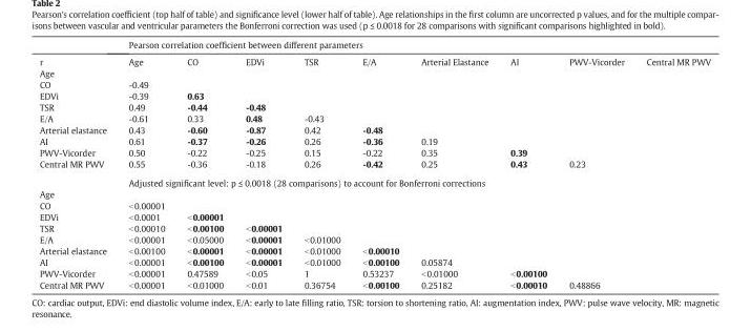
<table><thead><tr><td rowspan="2">r</td><td colspan="9">Pearson correlation coefficient between different parameters</td></tr><tr><td>Age</td><td>CO</td><td>EDVi</td><td>TSR</td><td>E/A</td><td>Arterial Elastance</td><td>AI</td><td>PWV-Vicorder</td><td>Central MR PWV</td></tr></thead><tbody><tr><td colspan="10">Age</td></tr><tr><td>CO</td><td>-0.49</td><td></td><td></td><td></td><td></td><td></td><td></td><td></td><td></td></tr><tr><td>EDVi</td><td>-0.39</td><td>0.63</td><td></td><td></td><td></td><td></td><td></td><td></td><td></td></tr><tr><td>TSR</td><td>0.49</td><td>-0.44</td><td>-0.48</td><td></td><td></td><td></td><td></td><td></td><td></td></tr><tr><td>E/A</td><td>-0.61</td><td>0.33</td><td>0.48</td><td>-0.43</td><td></td><td></td><td></td><td></td><td></td></tr><tr><td>Arterial elastance</td><td>0.43</td><td>-0.60</td><td>-0.87</td><td>0.42</td><td>-0.48</td><td></td><td></td><td></td><td></td></tr><tr><td>AI</td><td>0.61</td><td>-0.37</td><td>-0.26</td><td>0.26</td><td>-0.36</td><td>0.19</td><td></td><td></td><td></td></tr><tr><td>PWV-Vicorder</td><td>0.50</td><td>-0.22</td><td>-0.25</td><td>0.15</td><td>-0.22</td><td>0.35</td><td>0.39</td><td></td><td></td></tr><tr><td rowspan="2">Central MR PWV</td><td>0.55</td><td>-0.36</td><td>-0.18</td><td>0.26</td><td>-0.42</td><td>0.25</td><td>0.43</td><td>0.23</td><td></td></tr><tr><td colspan="9">Adjusted significant level: p ≤ 0.0018 (28 comparisons) to account for Bonferroni corrections</td></tr><tr><td colspan="10">Age</td></tr><tr><td>CO</td><td>&lt;0.00001</td><td></td><td></td><td></td><td></td><td></td><td></td><td></td><td></td></tr><tr><td>EDVi</td><td>&lt;0.0001</td><td>&lt;0.00001</td><td></td><td></td><td></td><td></td><td></td><td></td><td></td></tr><tr><td>TSR</td><td>&lt;0.00010</td><td>&lt;0.00100</td><td>&lt;0.00001</td><td></td><td></td><td></td><td></td><td></td><td></td></tr><tr><td>E/A</td><td>&lt;0.00001</td><td>&lt;0.05000</td><td>&lt;0.00001</td><td>&lt;0.01000</td><td></td><td></td><td></td><td></td><td></td></tr><tr><td>Arterial elastance</td><td>&lt;0.00100</td><td>&lt;0.00001</td><td>&lt;0.00001</td><td>&lt;0.01000</td><td>&lt;0.00010</td><td></td><td></td><td></td><td></td></tr><tr><td>AI</td><td>&lt;0.00001</td><td>&lt;0.00100</td><td>&lt;0.00001</td><td>&lt;0.01000</td><td>&lt;0.00100</td><td>0.05874</td><td></td><td></td><td></td></tr><tr><td>PWV-Vicorder</td><td>&lt;0.00001</td><td>0.47589</td><td>&lt;0.05</td><td>1</td><td>0.53237</td><td>&lt;0.01000</td><td>&lt;0.00100</td><td></td><td></td></tr><tr><td>Central MR PWV</td><td>&lt;0.00001</td><td>&lt;0.01000</td><td>&lt;0.01</td><td>0.36754</td><td>&lt;0.00100</td><td>0.25182</td><td>&lt;0.00010</td><td>0.48866</td><td></td></tr></tbody></table>